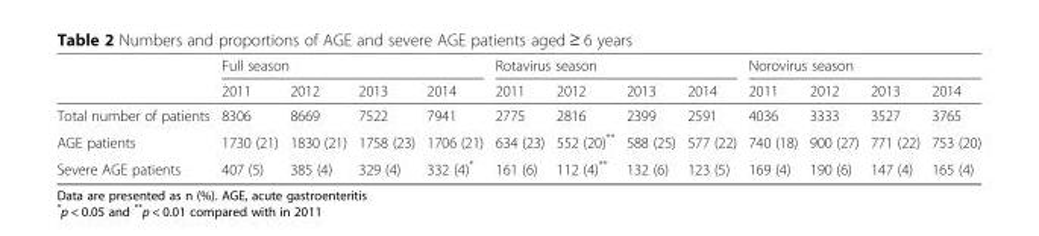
<table><thead><tr><td rowspan="2"></td><td colspan="4">Full season</td><td colspan="4">Rotavirus season</td><td colspan="4">Norovirus season</td></tr><tr><td>2011</td><td>2012</td><td>2013</td><td>2014</td><td>2011</td><td>2012</td><td>2013</td><td>2014</td><td>2011</td><td>2012</td><td>2013</td><td>2014</td></tr></thead><tbody><tr><td>Total number of patients</td><td>8306</td><td>8669</td><td>7522</td><td>7941</td><td>2775</td><td>2816</td><td>2399</td><td>2591</td><td>4036</td><td>3333</td><td>3527</td><td>3765</td></tr><tr><td>AGE patients</td><td>1730 (21)</td><td>1830 (21)</td><td>1758 (23)</td><td>1706 (21)</td><td>634 (23)</td><td>552 (20)**</td><td>588 (25)</td><td>577 (22)</td><td>740 (18)</td><td>900 (27)</td><td>771 (22)</td><td>753 (20)</td></tr><tr><td>Severe AGE patients</td><td>407 (5)</td><td>385 (4)</td><td>329 (4)</td><td>332 (4)*</td><td>161 (6)</td><td>112 (4)**</td><td>132 (6)</td><td>123 (5)</td><td>169 (4)</td><td>190 (6)</td><td>147 (4)</td><td>165 (4)</td></tr></tbody></table>